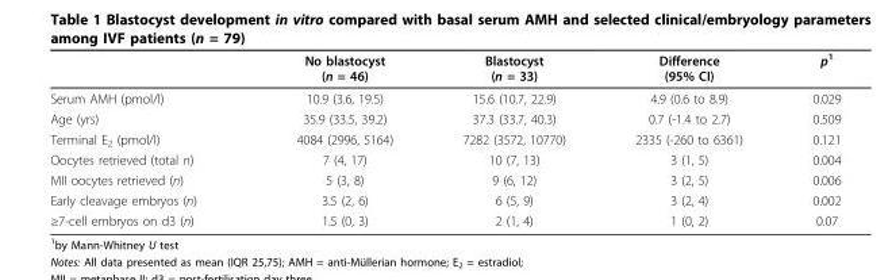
<table><thead><tr><td></td><td>No blastocyst (n = 46)</td><td>Blastocyst (n = 33)</td><td>Difference (95% CI)</td><td>p<sup>1</sup></td></tr></thead><tbody><tr><td>Serum AMH (pmol/l)</td><td>10.9 (3.6, 19.5)</td><td>15.6 (10.7, 22.9)</td><td>4.9 (0.6 to 8.9)</td><td>0.029</td></tr><tr><td>Age (yrs)</td><td>35.9 (33.5, 39.2)</td><td>37.3 (33.7, 40.3)</td><td>0.7 (-1.4 to 2.7)</td><td>0.509</td></tr><tr><td>Terminal E<sub>2</sub> (pmol/l)</td><td>4084 (2996, 5164)</td><td>7282 (3572, 10770)</td><td>2335 (-260 to 6361)</td><td>0.121</td></tr><tr><td>Oocytes retrieved (total n)</td><td>7 (4, 17)</td><td>10 (7, 13)</td><td>3 (1, 5)</td><td>0.004</td></tr><tr><td>MII oocytes retrieved (n)</td><td>5 (3, 8)</td><td>9 (6, 12)</td><td>3 (2, 5)</td><td>0.006</td></tr><tr><td>Early cleavage embryos (n)</td><td>3.5 (2, 6)</td><td>6 (5, 9)</td><td>3 (2, 4)</td><td>0.002</td></tr><tr><td>≥7-cell embryos on d3 (n)</td><td>1.5 (0, 3)</td><td>2 (1, 4)</td><td>1 (0, 2)</td><td>0.07</td></tr></tbody></table>